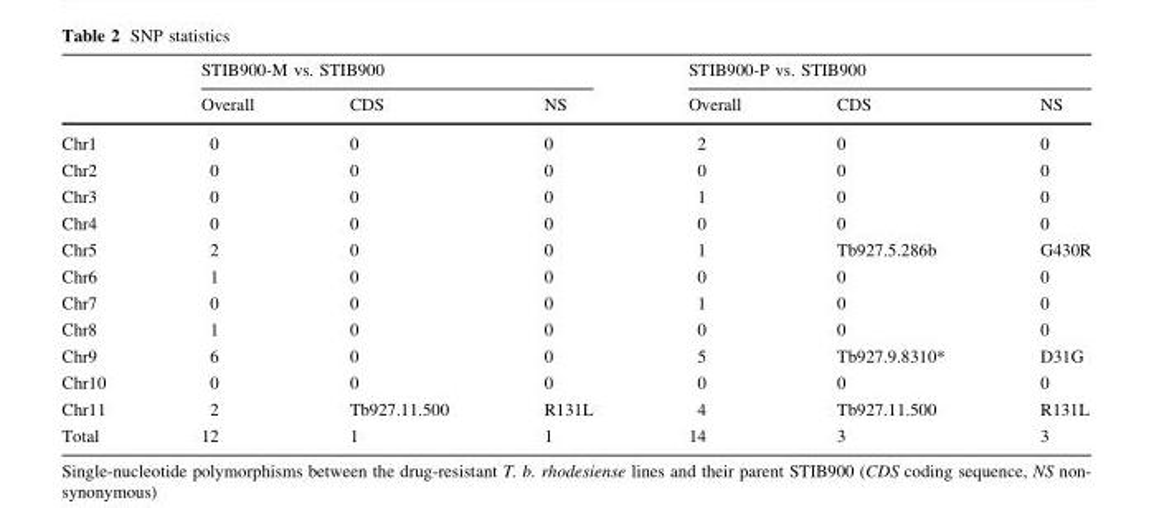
<table><thead><tr><td rowspan="2"></td><td colspan="3">STIB900-M vs. STIB900</td><td colspan="3">STIB900-P vs. STIB900</td></tr><tr><td>Overall</td><td>CDS</td><td>NS</td><td>Overall</td><td>CDS</td><td>NS</td></tr></thead><tbody><tr><td>Chr1</td><td>0</td><td>0</td><td>0</td><td>2</td><td>0</td><td>0</td></tr><tr><td>Chr2</td><td>0</td><td>0</td><td>0</td><td>0</td><td>0</td><td>0</td></tr><tr><td>Chr3</td><td>0</td><td>0</td><td>0</td><td>1</td><td>0</td><td>0</td></tr><tr><td>Chr4</td><td>0</td><td>0</td><td>0</td><td>0</td><td>0</td><td>0</td></tr><tr><td>Chr5</td><td>2</td><td>0</td><td>0</td><td>1</td><td>Tb927.5.286b</td><td>G430R</td></tr><tr><td>Chr6</td><td>1</td><td>0</td><td>0</td><td>0</td><td>0</td><td>0</td></tr><tr><td>Chr7</td><td>0</td><td>0</td><td>0</td><td>1</td><td>0</td><td>0</td></tr><tr><td>Chr8</td><td>1</td><td>0</td><td>0</td><td>0</td><td>0</td><td>0</td></tr><tr><td>Chr9</td><td>6</td><td>0</td><td>0</td><td>5</td><td>Tb927.9.8310*</td><td>D31G</td></tr><tr><td>Chr10</td><td>0</td><td>0</td><td>0</td><td>0</td><td>0</td><td>0</td></tr><tr><td>Chr11</td><td>2</td><td>Tb927.11.500</td><td>R131L</td><td>4</td><td>Tb927.11.500</td><td>R131L</td></tr><tr><td>Total</td><td>12</td><td>1</td><td>1</td><td>14</td><td>3</td><td>3</td></tr></tbody></table>